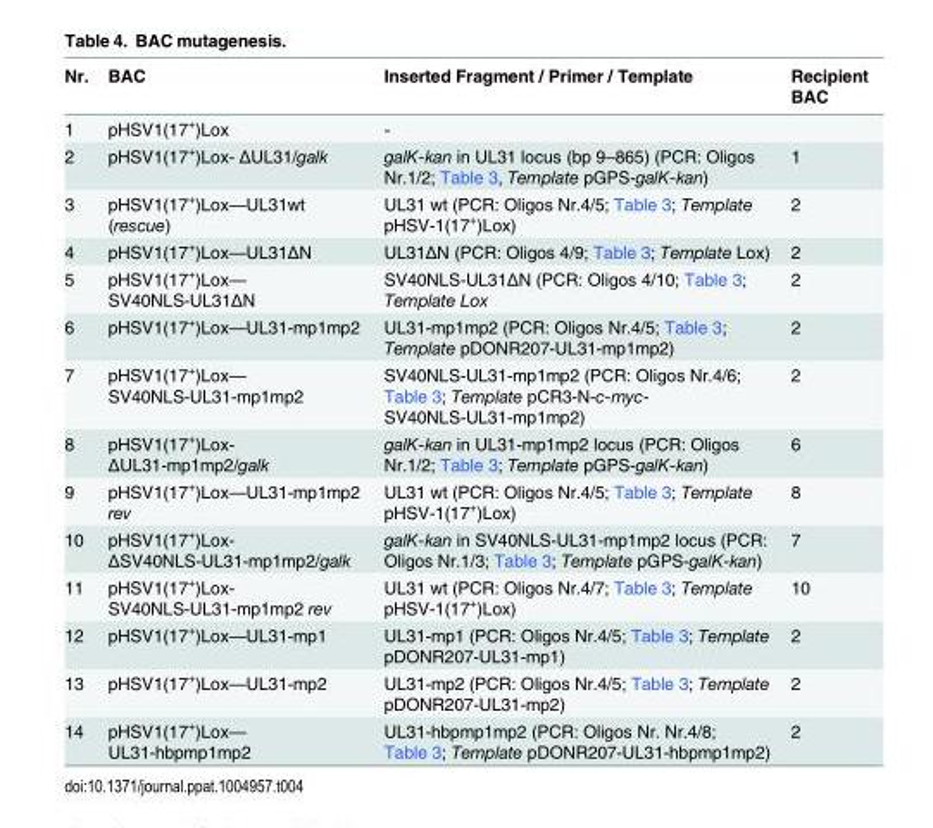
<table><thead><tr><td>Nr.</td><td>BAC</td><td>Inserted Fragment / Primer / Template</td><td>Recipient BAC</td></tr></thead><tbody><tr><td>1</td><td>pHSV1(17<sup>+</sup>)Lox</td><td>-</td><td></td></tr><tr><td>2</td><td>pHSV1(17<sup>+</sup>)Lox- ΔUL31/galk</td><td>galK-kan in UL31 locus (bp 9–865) (PCR: Oligos Nr.1/2; Table 3, Template pGPS-galK-kan)</td><td>1</td></tr><tr><td>3</td><td>pHSV1(17<sup>+</sup>)Lox—UL31wt (rescue)</td><td>UL31 wt (PCR: Oligos Nr.4/5; Table 3; Template pHSV-1(17<sup>+</sup>)Lox)</td><td>2</td></tr><tr><td>4</td><td>pHSV1(17<sup>+</sup>)Lox—UL31ΔN</td><td>UL31ΔN (PCR: Oligos 4/9; Table 3; Template Lox)</td><td>2</td></tr><tr><td>5</td><td>pHSV1(17<sup>+</sup>)Lox— SV40NLS-UL31ΔN</td><td>SV40NLS-UL31ΔN (PCR: Oligos 4/10; Table 3; Template Lox</td><td>2</td></tr><tr><td>6</td><td>pHSV1(17<sup>+</sup>)Lox—UL31-mp1mp2</td><td>UL31-mp1mp2 (PCR: Oligos Nr.4/5; Table 3; Template pDONR207-UL31-mp1mp2)</td><td>2</td></tr><tr><td>7</td><td>pHSV1(17<sup>+</sup>)Lox— SV40NLS-UL31-mp1mp2</td><td>SV40NLS-UL31-mp1mp2 (PCR: Oligos Nr.4/6; Table 3; Template pCR3-N-c-myc- SV40NLS-UL31-mp1mp2)</td><td>2</td></tr><tr><td>8</td><td>pHSV1(17<sup>+</sup>)Lox- ΔUL31-mp1mp2/galk</td><td>galK-kan in UL31-mp1mp2 locus (PCR: Oligos Nr.1/2; Table 3; Template pGPS-galK-kan)</td><td>6</td></tr><tr><td>9</td><td>pHSV1(17<sup>+</sup>)Lox—UL31-mp1mp2 rev</td><td>UL31 wt (PCR: Oligos Nr.4/5; Table 3; Template pHSV-1(17<sup>+</sup>)Lox)</td><td>8</td></tr><tr><td>10</td><td>pHSV1(17<sup>+</sup>)Lox- ΔSV40NLS-UL31-mp1mp2/galk</td><td>galK-kan in SV40NLS-UL31-mp1mp2 locus (PCR: Oligos Nr.1/3; Table 3; Template pGPS-galK-kan)</td><td>7</td></tr><tr><td>11</td><td>pHSV1(17<sup>+</sup>)Lox- SV40NLS-UL31-mp1mp2 rev</td><td>UL31 wt (PCR: Oligos Nr.4/7; Table 3; Template pHSV-1(17<sup>+</sup>)Lox)</td><td>10</td></tr><tr><td>12</td><td>pHSV1(17<sup>+</sup>)Lox—UL31-mp1</td><td>UL31-mp1 (PCR: Oligos Nr.4/5; Table 3; Template pDONR207-UL31-mp1)</td><td>2</td></tr><tr><td>13</td><td>pHSV1(17<sup>+</sup>)Lox—UL31-mp2</td><td>UL31-mp2 (PCR: Oligos Nr.4/5; Table 3; Template pDONR207-UL31-mp2)</td><td>2</td></tr><tr><td>14</td><td>pHSV1(17<sup>+</sup>)Lox— UL31-hbpmp1mp2</td><td>UL31-hbpmp1mp2 (PCR: Oligos Nr. Nr.4/8; Table 3; Template pDONR207-UL31-hbpmp1mp2)</td><td>2</td></tr></tbody></table>